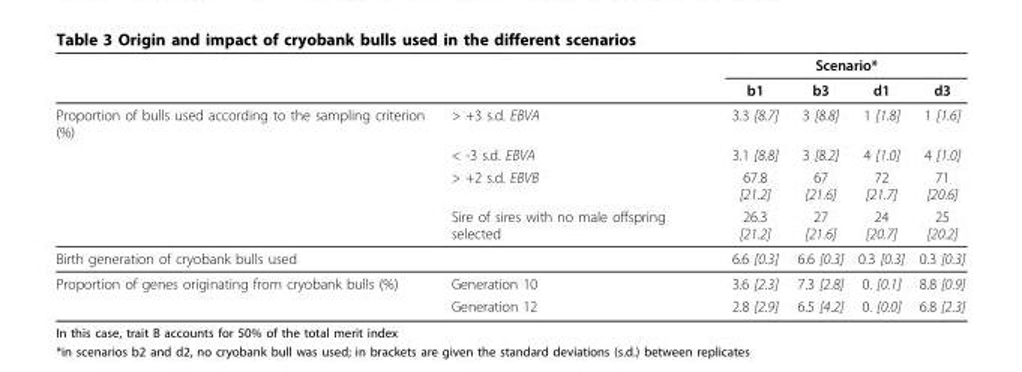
<table><thead><tr><td rowspan="2"></td><td rowspan="2"></td><td colspan="4">Scenario*</td></tr><tr><td>b1</td><td>b3</td><td>d1</td><td>d3</td></tr></thead><tbody><tr><td rowspan="4">Proportion of bulls used according to the sampling criterion (%)</td><td>&gt; +3 s.d. EBVA</td><td>3.3 [8.7]</td><td>3 [8.8]</td><td>1 [1.8]</td><td>1 [1.6]</td></tr><tr><td>&lt; -3 s.d. EBVA</td><td>3.1 [8.8]</td><td>3 [8.2]</td><td>4 [1.0]</td><td>4 [1.0]</td></tr><tr><td>&gt; +2 s.d. EBVB</td><td>67.8 [21.2]</td><td>67 [21.6]</td><td>72 [21.7]</td><td>71 [20.6]</td></tr><tr><td>Sire of sires with no male offspring selected</td><td>26.3 [21.2]</td><td>27 [21.6]</td><td>24 [20.7]</td><td>25 [20.2]</td></tr><tr><td colspan="2">Birth generation of cryobank bulls used</td><td>6.6 [0.3]</td><td>6.6 [0.3]</td><td>0.3 [0.3]</td><td>0.3 [0.3]</td></tr><tr><td rowspan="2">Proportion of genes originating from cryobank bulls (%)</td><td>Generation 10</td><td>3.6 [2.3]</td><td>7.3 [2.8]</td><td>0. [0.1]</td><td>8.8 [0.9]</td></tr><tr><td>Generation 12</td><td>2.8 [2.9]</td><td>6.5 [4.2]</td><td>0. [0.0]</td><td>6.8 [2.3]</td></tr></tbody></table>